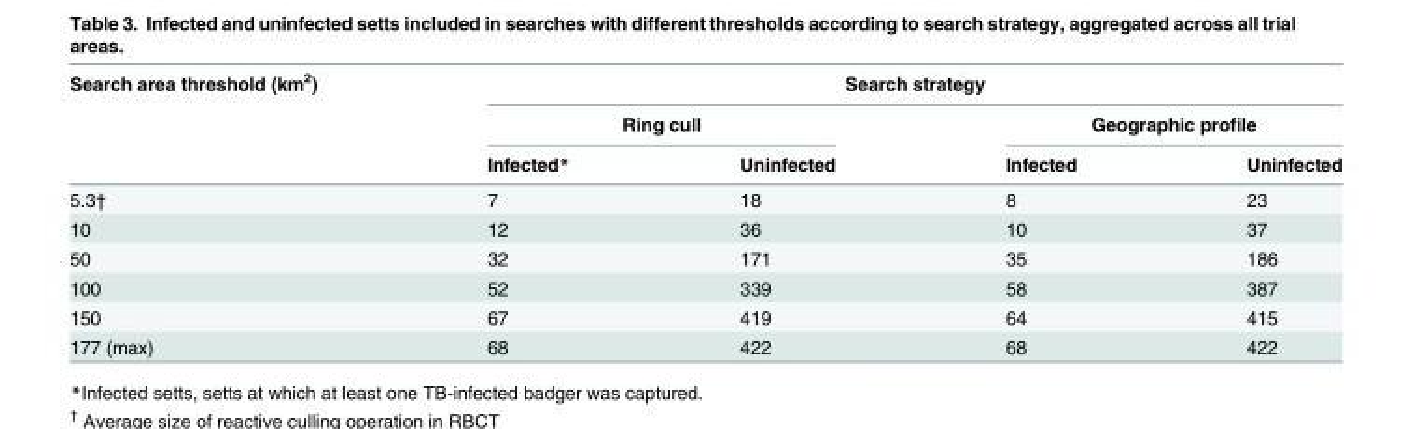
<table><thead><tr><td rowspan="3">Search area threshold (km<sup>2</sup>)</td><td colspan="4">Search strategy</td></tr><tr><td colspan="2">Ring cull</td><td colspan="2">Geographic profile</td></tr><tr><td>Infected*</td><td>Uninfected</td><td>Infected</td><td>Uninfected</td></tr></thead><tbody><tr><td>5.3†</td><td>7</td><td>18</td><td>8</td><td>23</td></tr><tr><td>10</td><td>12</td><td>36</td><td>10</td><td>37</td></tr><tr><td>50</td><td>32</td><td>171</td><td>35</td><td>186</td></tr><tr><td>100</td><td>52</td><td>339</td><td>58</td><td>387</td></tr><tr><td>150</td><td>67</td><td>419</td><td>64</td><td>415</td></tr><tr><td>177 (max)</td><td>68</td><td>422</td><td>68</td><td>422</td></tr></tbody></table>